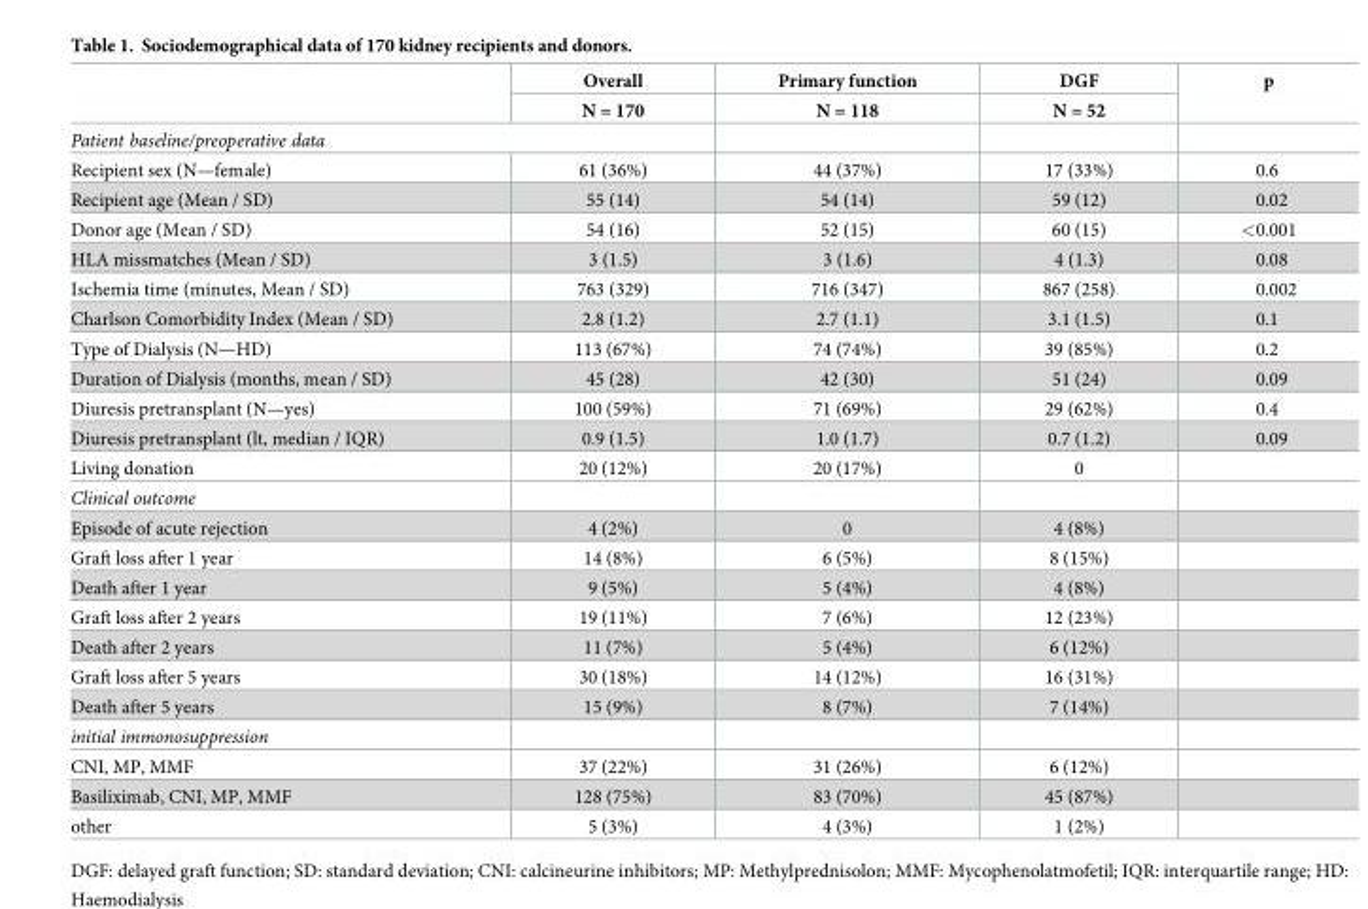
<table><thead><tr><td rowspan="2"></td><td rowspan="2">Overall N = 170</td><td rowspan="2">Primary function N = 118</td><td rowspan="2">DGF N = 52</td><td rowspan="2">p</td></tr><tr></tr></thead><tbody><tr><td colspan="5">Patient baseline/preoperative data</td></tr><tr><td>Recipient sex (N—female)</td><td>61 (36%)</td><td>44 (37%)</td><td>17 (33%)</td><td>0.6</td></tr><tr><td>Recipient age (Mean / SD)</td><td>55 (14)</td><td>54 (14)</td><td>59 (12)</td><td>0.02</td></tr><tr><td>Donor age (Mean / SD)</td><td>54 (16)</td><td>52 (15)</td><td>60 (15)</td><td>&lt;0.001</td></tr><tr><td>HLA missmatches (Mean / SD)</td><td>3 (1.5)</td><td>3 (1.6)</td><td>4 (1.3)</td><td>0.08</td></tr><tr><td>Ischemia time (minutes, Mean / SD)</td><td>763 (329)</td><td>716 (347)</td><td>867 (258)</td><td>0.002</td></tr><tr><td>Charlson Comorbidity Index (Mean / SD)</td><td>2.8 (1.2)</td><td>2.7 (1.1)</td><td>3.1 (1.5)</td><td>0.1</td></tr><tr><td>Type of Dialysis (N—HD)</td><td>113 (67%)</td><td>74 (74%)</td><td>39 (85%)</td><td>0.2</td></tr><tr><td>Duration of Dialysis (months, mean / SD)</td><td>45 (28)</td><td>42 (30)</td><td>51 (24)</td><td>0.09</td></tr><tr><td>Diuresis pretransplant (N—yes)</td><td>100 (59%)</td><td>71 (69%)</td><td>29 (62%)</td><td>0.4</td></tr><tr><td>Diuresis pretransplant (lt, median / IQR)</td><td>0.9 (1.5)</td><td>1.0 (1.7)</td><td>0.7 (1.2)</td><td>0.09</td></tr><tr><td>Living donation</td><td>20 (12%)</td><td>20 (17%)</td><td>0</td><td></td></tr><tr><td colspan="5">Clinical outcome</td></tr><tr><td>Episode of acute rejection</td><td>4 (2%)</td><td>0</td><td>4 (8%)</td><td></td></tr><tr><td>Graft loss after 1 year</td><td>14 (8%)</td><td>6 (5%)</td><td>8 (15%)</td><td></td></tr><tr><td>Death after 1 year</td><td>9 (5%)</td><td>5 (4%)</td><td>4 (8%)</td><td></td></tr><tr><td>Graft loss after 2 years</td><td>19 (11%)</td><td>7 (6%)</td><td>12 (23%)</td><td></td></tr><tr><td>Death after 2 years</td><td>11 (7%)</td><td>5 (4%)</td><td>6 (12%)</td><td></td></tr><tr><td>Graft loss after 5 years</td><td>30 (18%)</td><td>14 (12%)</td><td>16 (31%)</td><td></td></tr><tr><td>Death after 5 years</td><td>15 (9%)</td><td>8 (7%)</td><td>7 (14%)</td><td></td></tr><tr><td colspan="5">initial immonosuppression</td></tr><tr><td>CNI, MP, MMF</td><td>37 (22%)</td><td>31 (26%)</td><td>6 (12%)</td><td></td></tr><tr><td>Basiliximab, CNI, MP, MMF</td><td>128 (75%)</td><td>83 (70%)</td><td>45 (87%)</td><td></td></tr><tr><td>other</td><td>5 (3%)</td><td>4 (3%)</td><td>1 (2%)</td><td></td></tr></tbody></table>